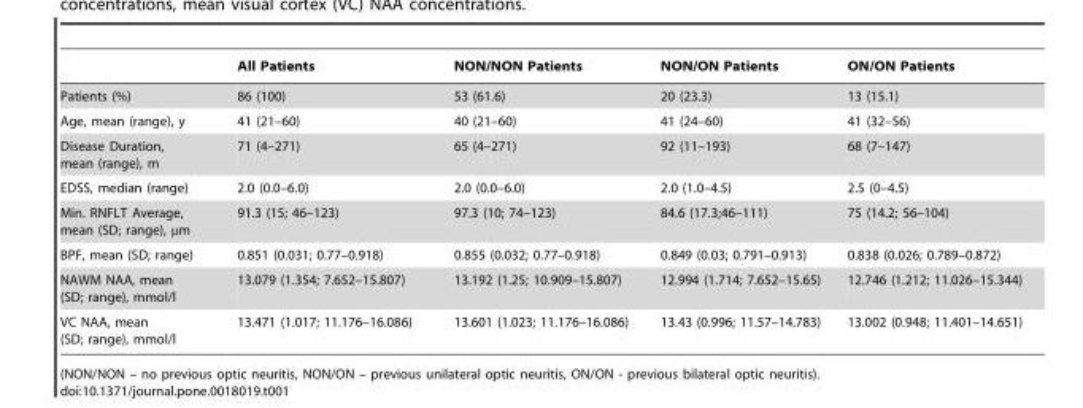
<table><thead><tr><td></td><td>All Patients</td><td>NON/NON Patients</td><td>NON/ON Patients</td><td>ON/ON Patients</td></tr></thead><tbody><tr><td>Patients (%)</td><td>86 (100)</td><td>53 (61.6)</td><td>20 (23.3)</td><td>13 (15.1)</td></tr><tr><td>Age, mean (range), y</td><td>41 (21–60)</td><td>40 (21–60)</td><td>41 (24–60)</td><td>41 (32–56)</td></tr><tr><td>Disease Duration, mean (range), m</td><td>71 (4–271)</td><td>65 (4–271)</td><td>92 (11–193)</td><td>68 (7–147)</td></tr><tr><td>EDSS, median (range)</td><td>2.0 (0.0–6.0)</td><td>2.0 (0.0–6.0)</td><td>2.0 (1.0–4.5)</td><td>2.5 (0–4.5)</td></tr><tr><td>Min. RNFLT Average, mean (SD; range), µm</td><td>91.3 (15; 46–123)</td><td>97.3 (10; 74–123)</td><td>84.6 (17.3;46–111)</td><td>75 (14.2; 56–104)</td></tr><tr><td>BPF, mean (SD; range)</td><td>0.851 (0.031; 0.77–0.918)</td><td>0.855 (0.032; 0.77–0.918)</td><td>0.849 (0.03; 0.791–0.913)</td><td>0.838 (0.026; 0.789–0.872)</td></tr><tr><td>NAWM NAA, mean (SD; range), mmol/l</td><td>13.079 (1.354; 7.652–15.807)</td><td>13.192 (1.25; 10.909–15.807)</td><td>12.994 (1.714; 7.652–15.65)</td><td>12.746 (1.212; 11.026–15.344)</td></tr><tr><td>VC NAA, mean (SD; range), mmol/l</td><td>13.471 (1.017; 11.176–16.086)</td><td>13.601 (1.023; 11.176–16.086)</td><td>13.43 (0.996; 11.57–14.783)</td><td>13.002 (0.948; 11.401–14.651)</td></tr></tbody></table>